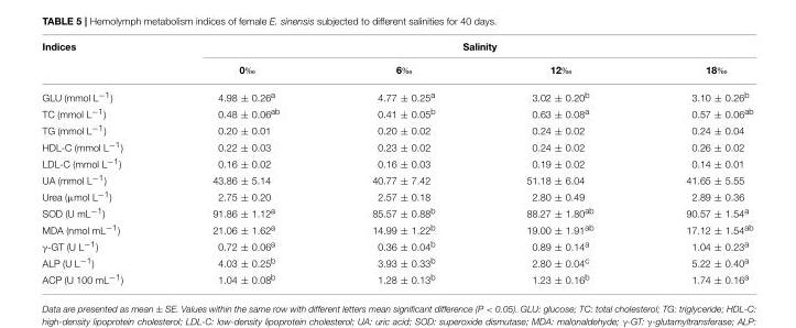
<table><thead><tr><td rowspan="2">Indices</td><td colspan="4">Salinity</td></tr><tr><td>0‰</td><td>6‰</td><td>12‰</td><td>18‰</td></tr></thead><tbody><tr><td>GLU (mmol L<sup>−1</sup>)</td><td>4.98 ± 0.26<sup>a</sup></td><td>4.77 ± 0.25<sup>a</sup></td><td>3.02 ± 0.20<sup>b</sup></td><td>3.10 ± 0.26<sup>b</sup></td></tr><tr><td>TC (mmol L<sup>−1</sup>)</td><td>0.48 ± 0.06<sup>ab</sup></td><td>0.41 ± 0.05<sup>b</sup></td><td>0.63 ± 0.08<sup>a</sup></td><td>0.57 ± 0.06<sup>ab</sup></td></tr><tr><td>TG (mmol L<sup>−1</sup>)</td><td>0.20 ± 0.01</td><td>0.20 ± 0.02</td><td>0.24 ± 0.02</td><td>0.24 ± 0.04</td></tr><tr><td>HDL-C (mmol L<sup>−1</sup>)</td><td>0.22 ± 0.03</td><td>0.23 ± 0.02</td><td>0.24 ± 0.02</td><td>0.26 ± 0.02</td></tr><tr><td>LDL-C (mmol L<sup>−1</sup>)</td><td>0.16 ± 0.02</td><td>0.16 ± 0.03</td><td>0.19 ± 0.02</td><td>0.14 ± 0.01</td></tr><tr><td>UA (mmol L<sup>−1</sup>)</td><td>43.86 ± 5.14</td><td>40.77 ± 7.42</td><td>51.18 ± 6.04</td><td>41.65 ± 5.55</td></tr><tr><td>Urea (µmol L<sup>−1</sup>)</td><td>2.75 ± 0.20</td><td>2.57 ± 0.18</td><td>2.80 ± 0.49</td><td>2.89 ± 0.36</td></tr><tr><td>SOD (U mL<sup>−1</sup>)</td><td>91.86 ± 1.12<sup>a</sup></td><td>85.57 ± 0.88<sup>b</sup></td><td>88.27 ± 1.80<sup>ab</sup></td><td>90.57 ± 1.54<sup>a</sup></td></tr><tr><td>MDA (nmol mL<sup>−1</sup>)</td><td>21.06 ± 1.62<sup>a</sup></td><td>14.99 ± 1.22<sup>b</sup></td><td>19.00 ± 1.91<sup>ab</sup></td><td>17.12 ± 1.54<sup>ab</sup></td></tr><tr><td>γ-GT (U L<sup>−1</sup>)</td><td>0.72 ± 0.06<sup>a</sup></td><td>0.36 ± 0.04<sup>b</sup></td><td>0.89 ± 0.14<sup>a</sup></td><td>1.04 ± 0.23<sup>a</sup></td></tr><tr><td>ALP (U L<sup>−1</sup>)</td><td>4.03 ± 0.25<sup>b</sup></td><td>3.93 ± 0.33<sup>b</sup></td><td>2.80 ± 0.04<sup>c</sup></td><td>5.22 ± 0.40<sup>a</sup></td></tr><tr><td>ACP (U 100 mL<sup>−1</sup>)</td><td>1.04 ± 0.08<sup>b</sup></td><td>1.28 ± 0.13<sup>b</sup></td><td>1.23 ± 0.16<sup>b</sup></td><td>1.74 ± 0.16<sup>a</sup></td></tr></tbody></table>